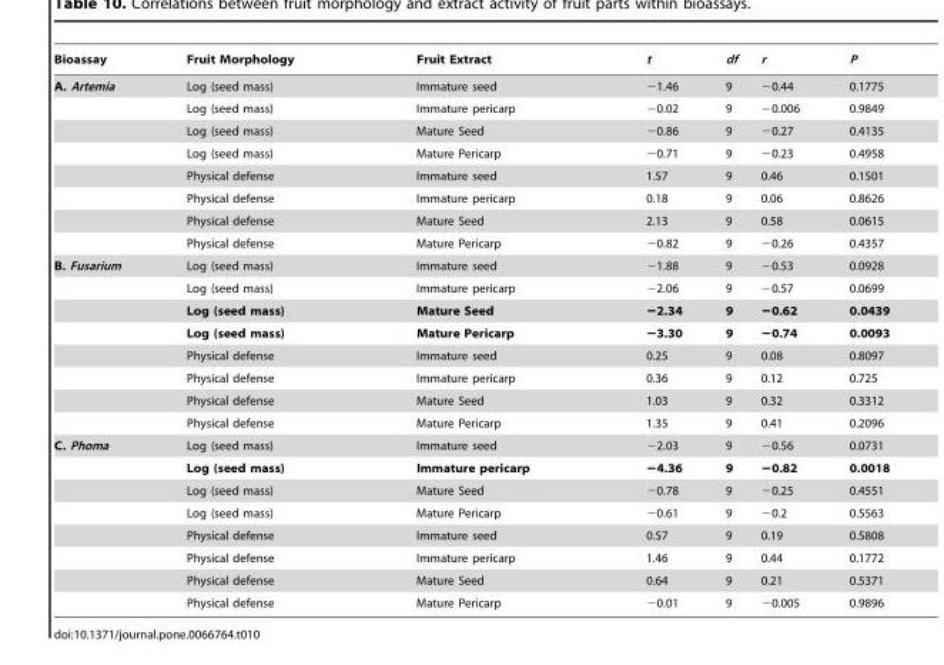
<table><thead><tr><td>Bioassay</td><td>Fruit Morphology</td><td>Fruit Extract</td><td>t</td><td>df</td><td>r</td><td>P</td></tr></thead><tbody><tr><td rowspan="8">A. Artemia</td><td>Log (seed mass)</td><td>Immature seed</td><td>−1.46</td><td>9</td><td>−0.44</td><td>0.1775</td></tr><tr><td>Log (seed mass)</td><td>Immature pericarp</td><td>−0.02</td><td>9</td><td>−0.006</td><td>0.9849</td></tr><tr><td>Log (seed mass)</td><td>Mature Seed</td><td>−0.86</td><td>9</td><td>−0.27</td><td>0.4135</td></tr><tr><td>Log (seed mass)</td><td>Mature Pericarp</td><td>−0.71</td><td>9</td><td>−0.23</td><td>0.4958</td></tr><tr><td>Physical defense</td><td>Immature seed</td><td>1.57</td><td>9</td><td>0.46</td><td>0.1501</td></tr><tr><td>Physical defense</td><td>Immature pericarp</td><td>0.18</td><td>9</td><td>0.06</td><td>0.8626</td></tr><tr><td>Physical defense</td><td>Mature Seed</td><td>2.13</td><td>9</td><td>0.58</td><td>0.0615</td></tr><tr><td>Physical defense</td><td>Mature Pericarp</td><td>−0.82</td><td>9</td><td>−0.26</td><td>0.4357</td></tr><tr><td rowspan="8">B. Fusarium</td><td>Log (seed mass)</td><td>Immature seed</td><td>−1.88</td><td>9</td><td>−0.53</td><td>0.0928</td></tr><tr><td>Log (seed mass)</td><td>Immature pericarp</td><td>−2.06</td><td>9</td><td>−0.57</td><td>0.0699</td></tr><tr><td>Log (seed mass)</td><td>Mature Seed</td><td>−2.34</td><td>9</td><td>−0.62</td><td>0.0439</td></tr><tr><td>Log (seed mass)</td><td>Mature Pericarp</td><td>−3.30</td><td>9</td><td>−0.74</td><td>0.0093</td></tr><tr><td>Physical defense</td><td>Immature seed</td><td>0.25</td><td>9</td><td>0.08</td><td>0.8097</td></tr><tr><td>Physical defense</td><td>Immature pericarp</td><td>0.36</td><td>9</td><td>0.12</td><td>0.725</td></tr><tr><td>Physical defense</td><td>Mature Seed</td><td>1.03</td><td>9</td><td>0.32</td><td>0.3312</td></tr><tr><td>Physical defense</td><td>Mature Pericarp</td><td>1.35</td><td>9</td><td>0.41</td><td>0.2096</td></tr><tr><td rowspan="8">C. Phoma</td><td>Log (seed mass)</td><td>Immature seed</td><td>−2.03</td><td>9</td><td>−0.56</td><td>0.0731</td></tr><tr><td>Log (seed mass)</td><td>Immature pericarp</td><td>−4.36</td><td>9</td><td>−0.82</td><td>0.0018</td></tr><tr><td>Log (seed mass)</td><td>Mature Seed</td><td>−0.78</td><td>9</td><td>−0.25</td><td>0.4551</td></tr><tr><td>Log (seed mass)</td><td>Mature Pericarp</td><td>−0.61</td><td>9</td><td>−0.2</td><td>0.5563</td></tr><tr><td>Physical defense</td><td>Immature seed</td><td>0.57</td><td>9</td><td>0.19</td><td>0.5808</td></tr><tr><td>Physical defense</td><td>Immature pericarp</td><td>1.46</td><td>9</td><td>0.44</td><td>0.1772</td></tr><tr><td>Physical defense</td><td>Mature Seed</td><td>0.64</td><td>9</td><td>0.21</td><td>0.5371</td></tr><tr><td>Physical defense</td><td>Mature Pericarp</td><td>−0.01</td><td>9</td><td>−0.005</td><td>0.9896</td></tr></tbody></table>